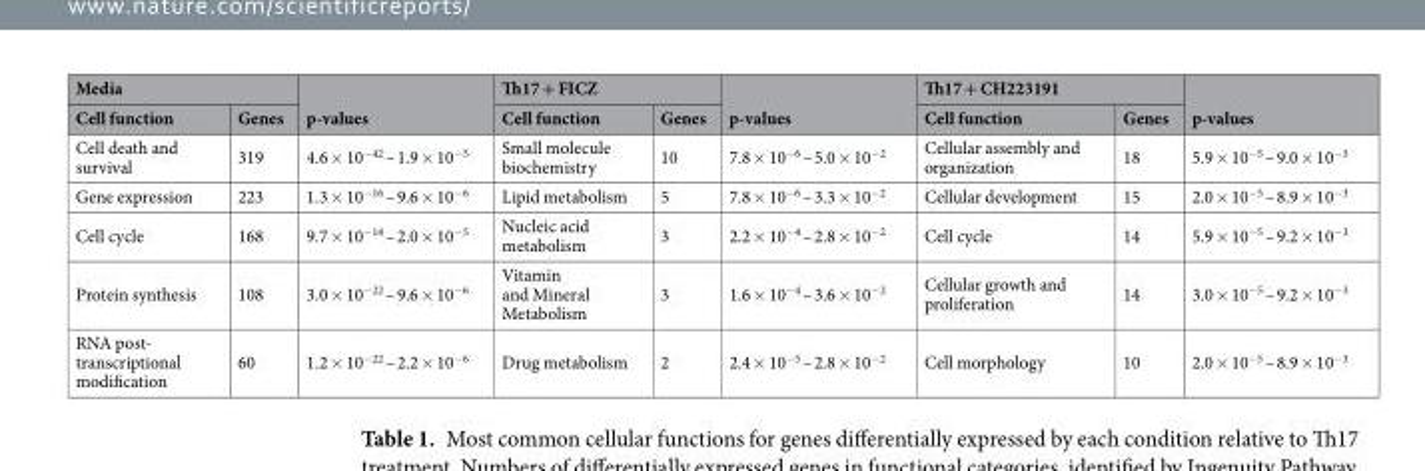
<table><thead><tr><td colspan="2">Media</td><td rowspan="2">p-values</td><td colspan="2">Th17 + FICZ</td><td rowspan="2">p-values</td><td colspan="2">Th17 + CH223191</td><td rowspan="2">p-values</td></tr><tr><td>Cell function</td><td>Genes</td><td>Cell function</td><td>Genes</td><td>Cell function</td><td>Genes</td></tr></thead><tbody><tr><td>Cell death and survival</td><td>319</td><td>4.6 × 10<sup>−42</sup> – 1.9 × 10<sup>−5</sup></td><td>Small molecule biochemistry</td><td>10</td><td>7.8 × 10<sup>−6</sup> – 5.0 × 10<sup>−2</sup></td><td>Cellular assembly and organization</td><td>18</td><td>5.9 × 10<sup>−5</sup> – 9.0 × 10<sup>−3</sup></td></tr><tr><td>Gene expression</td><td>223</td><td>1.3 × 10<sup>−16</sup> – 9.6 × 10<sup>−6</sup></td><td>Lipid metabolism</td><td>5</td><td>7.8 × 10<sup>−6</sup> – 3.3 × 10<sup>−2</sup></td><td>Cellular development</td><td>15</td><td>2.0 × 10<sup>−5</sup> – 8.9 × 10<sup>−3</sup></td></tr><tr><td>Cell cycle</td><td>168</td><td>9.7 × 10<sup>−14</sup> – 2.0 × 10<sup>−5</sup></td><td>Nucleic acid metabolism</td><td>3</td><td>2.2 × 10<sup>−4</sup> – 2.8 × 10<sup>−2</sup></td><td>Cell cycle</td><td>14</td><td>5.9 × 10<sup>−5</sup> – 9.2 × 10<sup>−3</sup></td></tr><tr><td>Protein synthesis</td><td>108</td><td>3.0 × 10<sup>−22</sup> – 9.6 × 10<sup>−6</sup></td><td>Vitamin and Mineral Metabolism</td><td>3</td><td>1.6 × 10<sup>−4</sup> – 3.6 × 10<sup>−2</sup></td><td>Cellular growth and proliferation</td><td>14</td><td>3.0 × 10<sup>−5</sup> – 9.2 × 10<sup>−3</sup></td></tr><tr><td>RNA post- transcriptional modification</td><td>60</td><td>1.2 × 10<sup>−22</sup> – 2.2 × 10<sup>−6</sup></td><td>Drug metabolism</td><td>2</td><td>2.4 × 10<sup>−5</sup> – 2.8 × 10<sup>−2</sup></td><td>Cell morphology</td><td>10</td><td>2.0 × 10<sup>−5</sup> – 8.9 × 10<sup>−3</sup></td></tr></tbody></table>